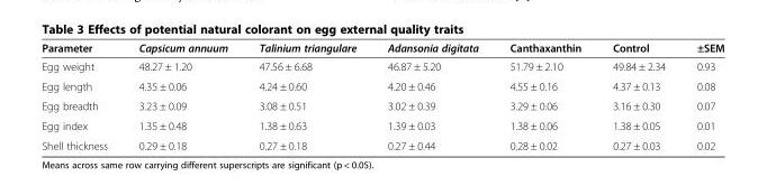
<table><thead><tr><td>Parameter</td><td>Capsicum annuum</td><td>Talinium triangulare</td><td>Adansonia digitata</td><td>Canthaxanthin</td><td>Control</td><td>±SEM</td></tr></thead><tbody><tr><td>Egg weight</td><td>48.27 ± 1.20</td><td>47.56 ± 6.68</td><td>46.87 ± 5.20</td><td>51.79 ± 2.10</td><td>49.84 ± 2.34</td><td>0.93</td></tr><tr><td>Egg length</td><td>4.35 ± 0.06</td><td>4.24 ± 0.60</td><td>4.20 ± 0.46</td><td>4.55 ± 0.16</td><td>4.37 ± 0.13</td><td>0.08</td></tr><tr><td>Egg breadth</td><td>3.23 ± 0.09</td><td>3.08 ± 0.51</td><td>3.02 ± 0.39</td><td>3.29 ± 0.06</td><td>3.16 ± 0.30</td><td>0.07</td></tr><tr><td>Egg index</td><td>1.35 ± 0.48</td><td>1.38 ± 0.63</td><td>1.39 ± 0.03</td><td>1.38 ± 0.06</td><td>1.38 ± 0.05</td><td>0.01</td></tr><tr><td>Shell thickness</td><td>0.29 ± 0.18</td><td>0.27 ± 0.18</td><td>0.27 ± 0.44</td><td>0.28 ± 0.02</td><td>0.27 ± 0.03</td><td>0.02</td></tr></tbody></table>